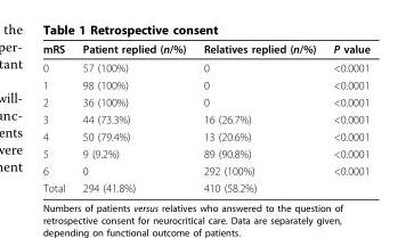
<table><thead><tr><td>mRS</td><td>Patient replied (n/%)</td><td>Relatives replied (n/%)</td><td>P value</td></tr></thead><tbody><tr><td>0</td><td>57 (100%)</td><td>0</td><td>&lt;0.0001</td></tr><tr><td>1</td><td>98 (100%)</td><td>0</td><td>&lt;0.0001</td></tr><tr><td>2</td><td>36 (100%)</td><td>0</td><td>&lt;0.0001</td></tr><tr><td>3</td><td>44 (73.3%)</td><td>16 (26.7%)</td><td>&lt;0.0001</td></tr><tr><td>4</td><td>50 (79.4%)</td><td>13 (20.6%)</td><td>&lt;0.0001</td></tr><tr><td>5</td><td>9 (9.2%)</td><td>89 (90.8%)</td><td>&lt;0.0001</td></tr><tr><td>6</td><td>0</td><td>292 (100%)</td><td>&lt;0.0001</td></tr><tr><td>Total</td><td>294 (41.8%)</td><td>410 (58.2%)</td><td></td></tr></tbody></table>